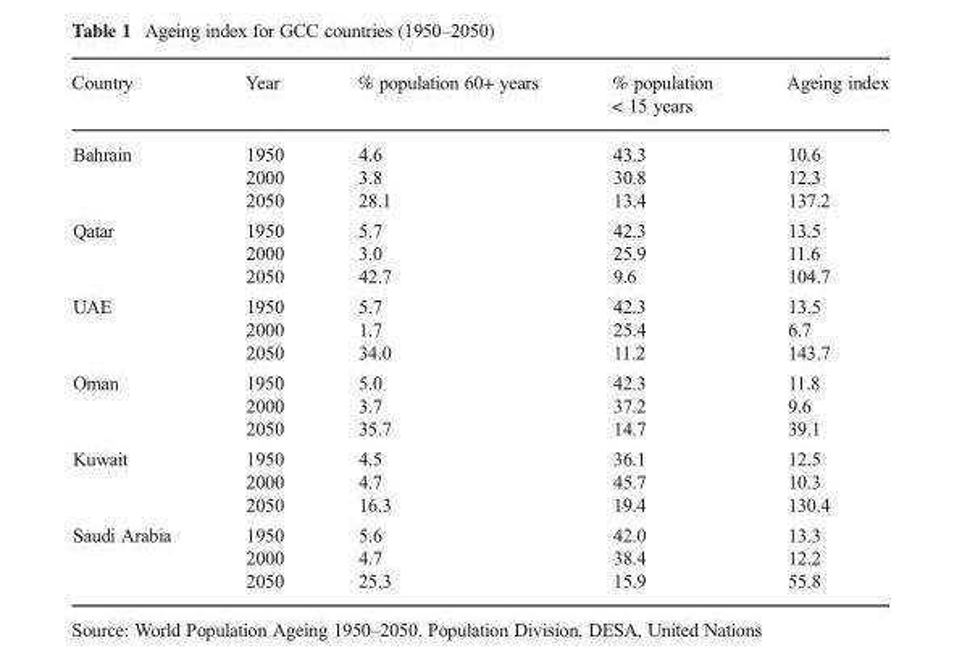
<table><thead><tr><td>Country</td><td>Year</td><td>% population 60+ years</td><td>% population &lt; 15 years</td><td>Ageing index</td></tr></thead><tbody><tr><td>Bahrain</td><td>1950 2000 2050</td><td>4.6 3.8 28.1</td><td>43.3 30.8 13.4</td><td>10.6 12.3 137.2</td></tr><tr><td>Qatar</td><td>1950 2000 2050</td><td>5.7 3.0 42.7</td><td>42.3 25.9 9.6</td><td>13.5 11.6 104.7</td></tr><tr><td>UAE</td><td>1950 2000 2050</td><td>5.7 1.7 34.0</td><td>42.3 25.4 11.2</td><td>13.5 6.7 143.7</td></tr><tr><td>Oman</td><td>1950 2000 2050</td><td>5.0 3.7 35.7</td><td>42.3 37.2 14.7</td><td>11.8 9.6 39.1</td></tr><tr><td>Kuwait</td><td>1950 2000 2050</td><td>4.5 4.7 16.3</td><td>36.1 45.7 19.4</td><td>12.5 10.3 130.4</td></tr><tr><td>Saudi Arabia</td><td>1950 2000 2050</td><td>5.6 4.7 25.3</td><td>42.0 38.4 15.9</td><td>13.3 12.2 55.8</td></tr></tbody></table>